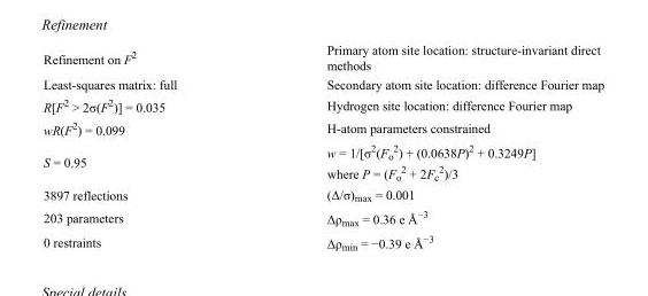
<table><tbody><tr><td>Refinement on F<sup>2</sup></td><td>Primary atom site location: structure-invariant direct methods</td></tr><tr><td>Least-squares matrix: full</td><td>Secondary atom site location: difference Fourier map</td></tr><tr><td>R[F<sup>2</sup> &gt; 2σ(F<sup>2</sup>)] = 0.035</td><td>Hydrogen site location: difference Fourier map</td></tr><tr><td>wR(F<sup>2</sup>) = 0.099</td><td>H-atom parameters constrained</td></tr><tr><td>S = 0.95</td><td>w = 1/[σ<sup>2</sup>(F<sub>o</sub> <sup>2</sup>) + (0.0638P)<sup>2</sup> + 0.3249P] where P = (F<sub>o</sub> <sup>2</sup> + 2F<sub>c</sub> <sup>2</sup>)/3</td></tr><tr><td>3897 reflections</td><td>(Δ/σ)<sub>max</sub> = 0.001</td></tr><tr><td>203 parameters</td><td>Δρ<sub>max</sub> = 0.36 e Å<sup>−3</sup></td></tr><tr><td>0 restraints</td><td>Δρ<sub>min</sub> = −0.39 e Å<sup>−3</sup></td></tr></tbody></table>